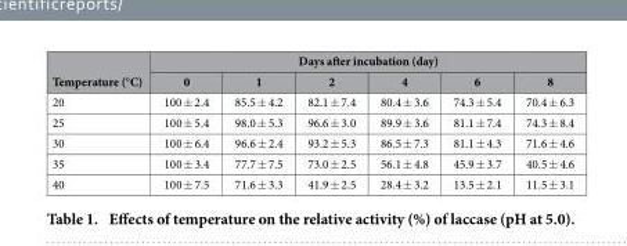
<table><thead><tr><td rowspan="2">Temperature (°C)</td><td colspan="6">Days after incubation (day)</td></tr><tr><td>0</td><td>1</td><td>2</td><td>4</td><td>6</td><td>8</td></tr></thead><tbody><tr><td>20</td><td>100 ± 2.4</td><td>85.5 ± 4.2</td><td>82.1 ± 7.4</td><td>80.4 ± 3.6</td><td>74.3 ± 5.4</td><td>70.4 ± 6.3</td></tr><tr><td>25</td><td>100 ± 5.4</td><td>98.0 ± 5.3</td><td>96.6 ± 3.0</td><td>89.9 ± 3.6</td><td>81.1 ± 7.4</td><td>74.3 ± 8.4</td></tr><tr><td>30</td><td>100 ± 6.4</td><td>96.6 ± 2.4</td><td>93.2 ± 5.3</td><td>86.5 ± 7.3</td><td>81.1 ± 4.3</td><td>71.6 ± 4.6</td></tr><tr><td>35</td><td>100 ± 3.4</td><td>77.7 ± 7.5</td><td>73.0 ± 2.5</td><td>56.1 ± 4.8</td><td>45.9 ± 3.7</td><td>40.5 ± 4.6</td></tr><tr><td>40</td><td>100 ± 7.5</td><td>71.6 ± 3.3</td><td>41.9 ± 2.5</td><td>28.4 ± 3.2</td><td>13.5 ± 2.1</td><td>11.5 ± 3.1</td></tr></tbody></table>